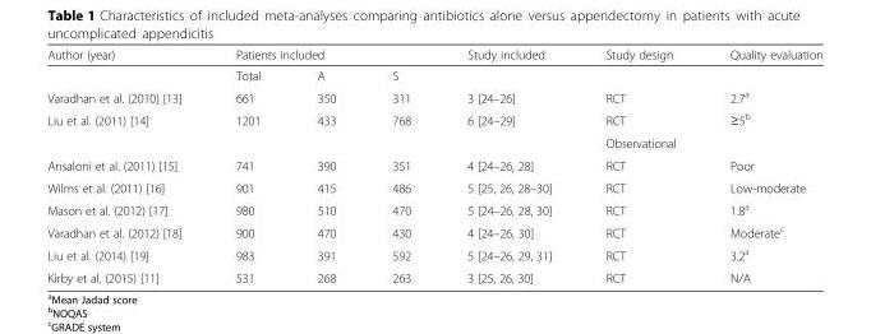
<table><thead><tr><td rowspan="2">Author (year)</td><td colspan="3">Patients included</td><td rowspan="2">Study included</td><td rowspan="2">Study design</td><td rowspan="2">Quality evaluation</td></tr><tr><td>Total</td><td>A</td><td>S</td></tr></thead><tbody><tr><td>Varadhan et al. (2010) [13]</td><td>661</td><td>350</td><td>311</td><td>3 [24–26]</td><td>RCT</td><td>2.7<sup>a</sup></td></tr><tr><td rowspan="2">Liu et al. (2011) [14]</td><td rowspan="2">1201</td><td rowspan="2">433</td><td rowspan="2">768</td><td rowspan="2">6 [24–29]</td><td>RCT</td><td rowspan="2">≥5<sup>b</sup></td></tr><tr><td>Observational</td></tr><tr><td>Ansaloni et al. (2011) [15]</td><td>741</td><td>390</td><td>351</td><td>4 [24–26, 28]</td><td>RCT</td><td>Poor</td></tr><tr><td>Wilms et al. (2011) [16]</td><td>901</td><td>415</td><td>486</td><td>5 [25, 26, 28–30]</td><td>RCT</td><td>Low-moderate</td></tr><tr><td>Mason et al. (2012) [17]</td><td>980</td><td>510</td><td>470</td><td>5 [24–26, 28, 30]</td><td>RCT</td><td>1.8<sup>a</sup></td></tr><tr><td>Varadhan et al. (2012) [18]</td><td>900</td><td>470</td><td>430</td><td>4 [24–26, 30]</td><td>RCT</td><td>Moderate<sup>c</sup></td></tr><tr><td>Liu et al. (2014) [19]</td><td>983</td><td>391</td><td>592</td><td>5 [24–26, 29, 31]</td><td>RCT</td><td>3.2<sup>a</sup></td></tr><tr><td>Kirby et al. (2015) [11]</td><td>531</td><td>268</td><td>263</td><td>3 [25, 26, 30]</td><td>RCT</td><td>N/A</td></tr></tbody></table>